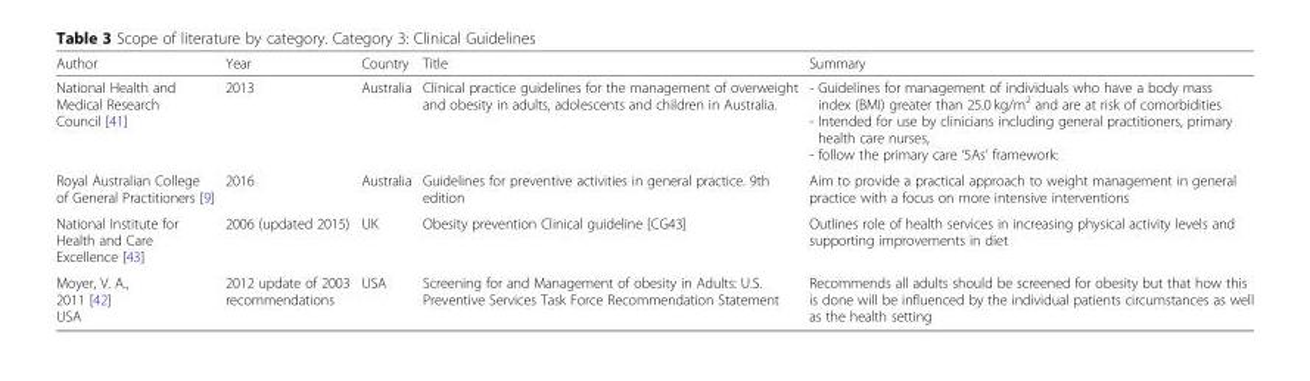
<table><thead><tr><td>Author</td><td>Year</td><td>Country</td><td>Title</td><td>Summary</td></tr></thead><tbody><tr><td>National Health and Medical Research Council [41]</td><td>2013</td><td>Australia</td><td>Clinical practice guidelines for the management of overweight and obesity in adults, adolescents and children in Australia.</td><td>- Guidelines for management of individuals who have a body mass index (BMI) greater than 25.0 kg/m<sup>2</sup> and are at risk of comorbidities - Intended for use by clinicians including general practitioners, primary health care nurses, - follow the primary care ‘5As’ framework:</td></tr><tr><td>Royal Australian College of General Practitioners [9]</td><td>2016</td><td>Australia</td><td>Guidelines for preventive activities in general practice. 9th edition</td><td>Aim to provide a practical approach to weight management in general practice with a focus on more intensive interventions</td></tr><tr><td>National Institute for Health and Care Excellence [43]</td><td>2006 (updated 2015)</td><td>UK</td><td>Obesity prevention Clinical guideline [CG43]</td><td>Outlines role of health services in increasing physical activity levels and supporting improvements in diet</td></tr><tr><td>Moyer, V. A., 2011 [42] USA</td><td>2012 update of 2003 recommendations</td><td>USA</td><td>Screening for and Management of obesity in Adults: U.S. Preventive Services Task Force Recommendation Statement</td><td>Recommends all adults should be screened for obesity but that how this is done will be influenced by the individual patients circumstances as well as the health setting</td></tr></tbody></table>